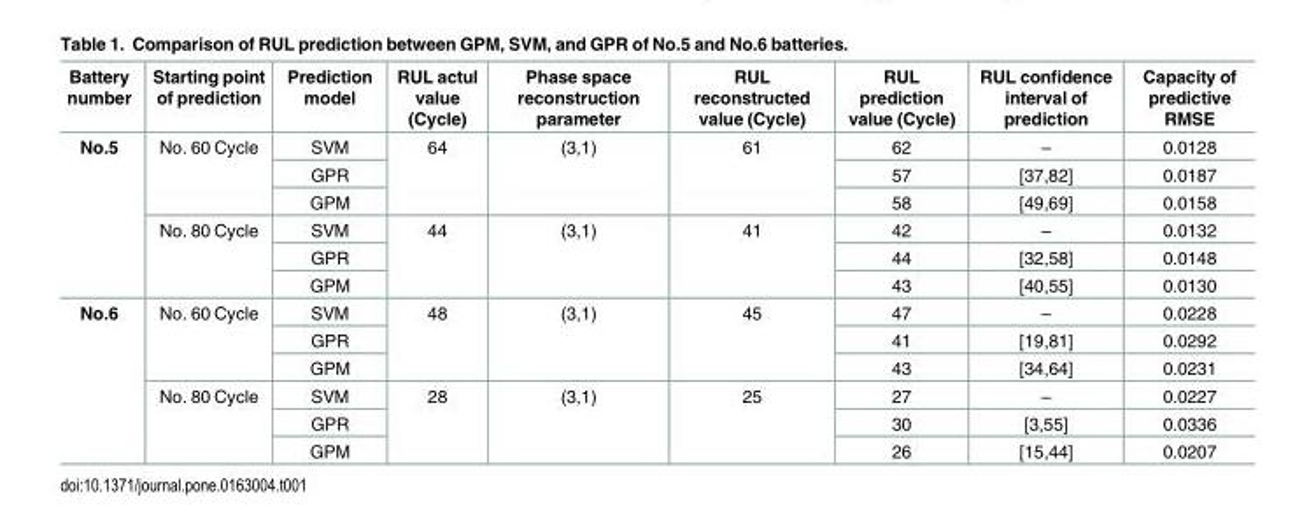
<table><thead><tr><td>Battery number</td><td>Starting point of prediction</td><td>Prediction model</td><td>RUL actul value (Cycle)</td><td>Phase space reconstruction parameter</td><td>RUL reconstructed value (Cycle)</td><td>RUL prediction value (Cycle)</td><td>RUL confidence interval of prediction</td><td>Capacity of predictive RMSE</td></tr></thead><tbody><tr><td rowspan="6">No.5</td><td rowspan="3">No. 60 Cycle</td><td>SVM</td><td rowspan="3">64</td><td rowspan="3">(3,1)</td><td rowspan="3">61</td><td>62</td><td>–</td><td>0.0128</td></tr><tr><td>GPR</td><td>57</td><td>[37,82]</td><td>0.0187</td></tr><tr><td>GPM</td><td>58</td><td>[49,69]</td><td>0.0158</td></tr><tr><td rowspan="3">No. 80 Cycle</td><td>SVM</td><td rowspan="3">44</td><td rowspan="3">(3,1)</td><td rowspan="3">41</td><td>42</td><td>–</td><td>0.0132</td></tr><tr><td>GPR</td><td>44</td><td>[32,58]</td><td>0.0148</td></tr><tr><td>GPM</td><td>43</td><td>[40,55]</td><td>0.0130</td></tr><tr><td rowspan="6">No.6</td><td rowspan="3">No. 60 Cycle</td><td>SVM</td><td rowspan="3">48</td><td rowspan="3">(3,1)</td><td rowspan="3">45</td><td>47</td><td>–</td><td>0.0228</td></tr><tr><td>GPR</td><td>41</td><td>[19,81]</td><td>0.0292</td></tr><tr><td>GPM</td><td>43</td><td>[34,64]</td><td>0.0231</td></tr><tr><td rowspan="3">No. 80 Cycle</td><td>SVM</td><td rowspan="3">28</td><td rowspan="3">(3,1)</td><td rowspan="3">25</td><td>27</td><td>–</td><td>0.0227</td></tr><tr><td>GPR</td><td>30</td><td>[3,55]</td><td>0.0336</td></tr><tr><td>GPM</td><td>26</td><td>[15,44]</td><td>0.0207</td></tr></tbody></table>